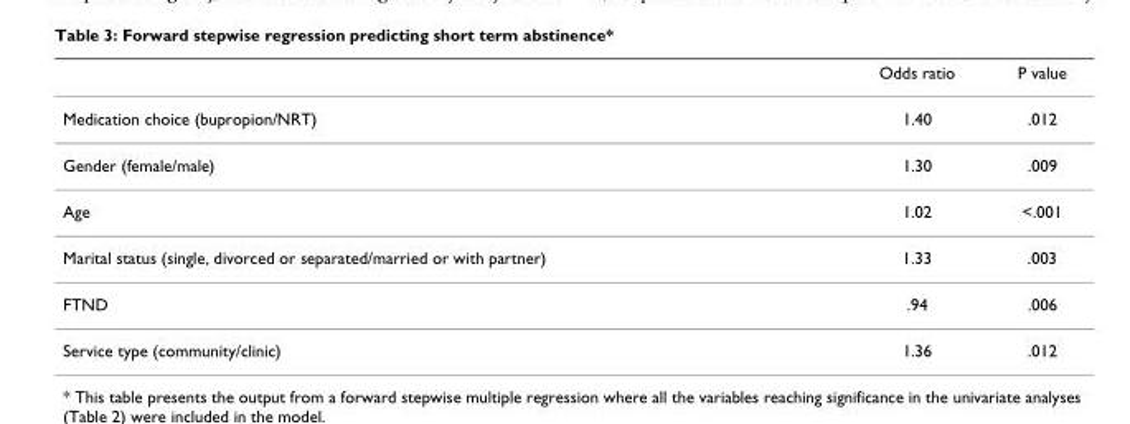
<table><thead><tr><td></td><td>Odds ratio</td><td>P value</td></tr></thead><tbody><tr><td>Medication choice (bupropion/NRT)</td><td>1.40</td><td>.012</td></tr><tr><td>Gender (female/male)</td><td>1.30</td><td>.009</td></tr><tr><td>Age</td><td>1.02</td><td>&lt;.001</td></tr><tr><td>Marital status (single, divorced or separated/married or with partner)</td><td>1.33</td><td>.003</td></tr><tr><td>FTND</td><td>.94</td><td>.006</td></tr><tr><td>Service type (community/clinic)</td><td>1.36</td><td>.012</td></tr></tbody></table>